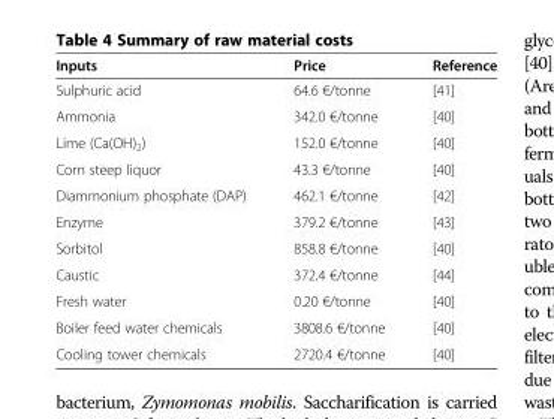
<table><thead><tr><td>Inputs</td><td>Price</td><td>Reference</td></tr></thead><tbody><tr><td>Sulphuric acid</td><td>64.6 €/tonne</td><td>[41]</td></tr><tr><td>Ammonia</td><td>342.0 €/tonne</td><td>[40]</td></tr><tr><td>Lime (Ca(OH)<sub>2</sub>)</td><td>152.0 €/tonne</td><td>[40]</td></tr><tr><td>Corn steep liquor</td><td>43.3 €/tonne</td><td>[40]</td></tr><tr><td>Diammonium phosphate (DAP)</td><td>462.1 €/tonne</td><td>[42]</td></tr><tr><td>Enzyme</td><td>379.2 €/tonne</td><td>[43]</td></tr><tr><td>Sorbitol</td><td>858.8 €/tonne</td><td>[40]</td></tr><tr><td>Caustic</td><td>372.4 €/tonne</td><td>[44]</td></tr><tr><td>Fresh water</td><td>0.20 €/tonne</td><td>[40]</td></tr><tr><td>Boiler feed water chemicals</td><td>3808.6 €/tonne</td><td>[40]</td></tr><tr><td>Cooling tower chemicals</td><td>2720.4 €/tonne</td><td>[40]</td></tr></tbody></table>